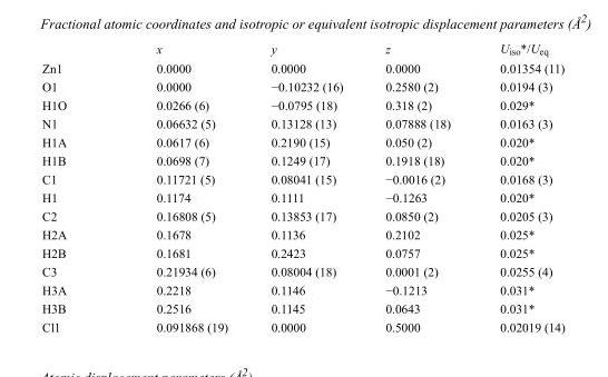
<table><thead><tr><td></td><td>x</td><td>y</td><td>z</td><td>U<sub>iso</sub>*/U<sub>eq</sub></td></tr></thead><tbody><tr><td>Zn1</td><td>0.0000</td><td>0.0000</td><td>0.0000</td><td>0.01354 (11)</td></tr><tr><td>O1</td><td>0.0000</td><td>−0.10232 (16)</td><td>0.2580 (2)</td><td>0.0194 (3)</td></tr><tr><td>H1O</td><td>0.0266 (6)</td><td>−0.0795 (18)</td><td>0.318 (2)</td><td>0.029*</td></tr><tr><td>N1</td><td>0.06632 (5)</td><td>0.13128 (13)</td><td>0.07888 (18)</td><td>0.0163 (3)</td></tr><tr><td>H1A</td><td>0.0617 (6)</td><td>0.2190 (15)</td><td>0.050 (2)</td><td>0.020*</td></tr><tr><td>H1B</td><td>0.0698 (7)</td><td>0.1249 (17)</td><td>0.1918 (18)</td><td>0.020*</td></tr><tr><td>C1</td><td>0.11721 (5)</td><td>0.08041 (15)</td><td>−0.0016 (2)</td><td>0.0168 (3)</td></tr><tr><td>H1</td><td>0.1174</td><td>0.1111</td><td>−0.1263</td><td>0.020*</td></tr><tr><td>C2</td><td>0.16808 (5)</td><td>0.13853 (17)</td><td>0.0850 (2)</td><td>0.0205 (3)</td></tr><tr><td>H2A</td><td>0.1678</td><td>0.1136</td><td>0.2102</td><td>0.025*</td></tr><tr><td>H2B</td><td>0.1681</td><td>0.2423</td><td>0.0757</td><td>0.025*</td></tr><tr><td>C3</td><td>0.21934 (6)</td><td>0.08004 (18)</td><td>0.0001 (2)</td><td>0.0255 (4)</td></tr><tr><td>H3A</td><td>0.2218</td><td>0.1146</td><td>−0.1213</td><td>0.031*</td></tr><tr><td>H3B</td><td>0.2516</td><td>0.1145</td><td>0.0643</td><td>0.031*</td></tr><tr><td>Cl1</td><td>0.091868 (19)</td><td>0.0000</td><td>0.5000</td><td>0.02019 (14)</td></tr></tbody></table>